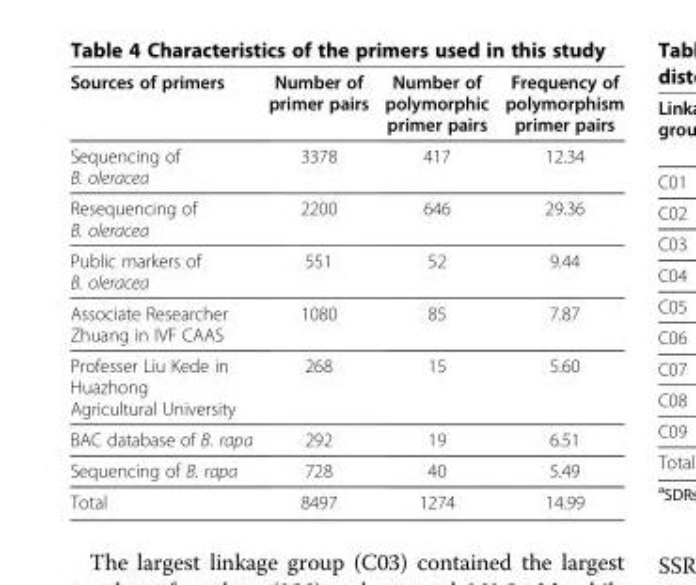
<table><thead><tr><td>Sources of primers</td><td>Number of primer pairs</td><td>Number of polymorphic primer pairs</td><td>Frequency of polymorphism primer pairs</td></tr></thead><tbody><tr><td>Sequencing of B. oleracea</td><td>3378</td><td>417</td><td>12.34</td></tr><tr><td>Resequencing of B. oleracea</td><td>2200</td><td>646</td><td>29.36</td></tr><tr><td>Public markers of B. oleracea</td><td>551</td><td>52</td><td>9.44</td></tr><tr><td>Associate Researcher Zhuang in IVF CAAS</td><td>1080</td><td>85</td><td>7.87</td></tr><tr><td>Professer Liu Kede in Huazhong Agricultural University</td><td>268</td><td>15</td><td>5.60</td></tr><tr><td>BAC database of B. rapa</td><td>292</td><td>19</td><td>6.51</td></tr><tr><td>Sequencing of B. rapa</td><td>728</td><td>40</td><td>5.49</td></tr><tr><td>Total</td><td>8497</td><td>1274</td><td>14.99</td></tr></tbody></table>